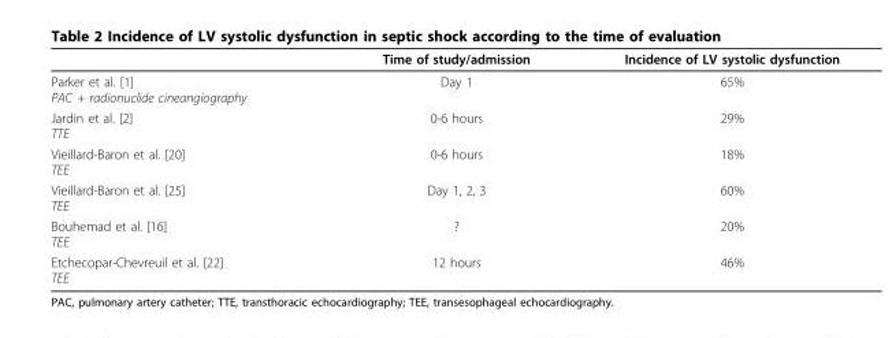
<table><thead><tr><td></td><td>Time of study/admission</td><td>Incidence of LV systolic dysfunction</td></tr></thead><tbody><tr><td>Parker et al. [1] PAC + radionuclide cineangiography</td><td>Day 1</td><td>65%</td></tr><tr><td>Jardin et al. [2] TTE</td><td>0-6 hours</td><td>29%</td></tr><tr><td>Vieillard-Baron et al. [20] TEE</td><td>0-6 hours</td><td>18%</td></tr><tr><td>Vieillard-Baron et al. [25] TEE</td><td>Day 1, 2, 3</td><td>60%</td></tr><tr><td>Bouhemad et al. [16] TEE</td><td>?</td><td>20%</td></tr><tr><td>Etchecopar-Chevreuil et al. [22] TEE</td><td>12 hours</td><td>46%</td></tr></tbody></table>